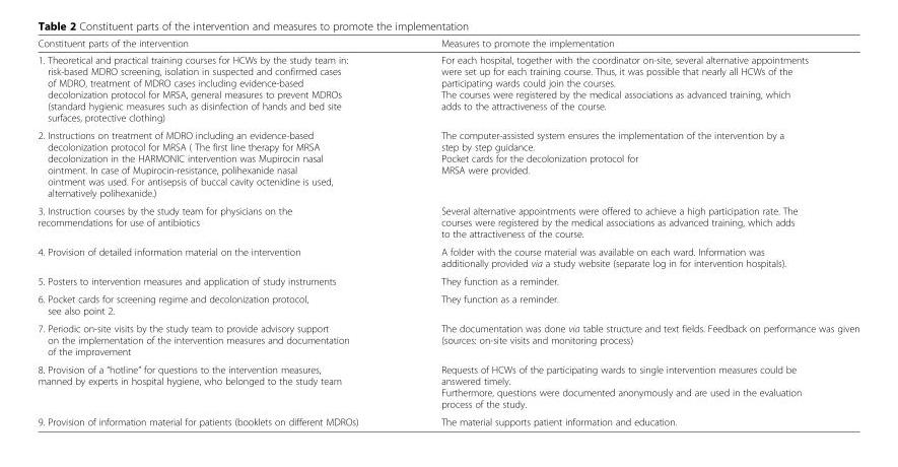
<table><thead><tr><td>Constituent parts of the intervention</td><td>Measures to promote the implementation</td></tr></thead><tbody><tr><td>1. Theoretical and practical training courses for HCWs by the study team in: risk-based MDRO screening, isolation in suspected and confirmed cases of MDRO, treatment of MDRO cases including evidence-based decolonization protocol for MRSA, general measures to prevent MDROs (standard hygienic measures such as disinfection of hands and bed site surfaces, protective clothing)</td><td>For each hospital, together with the coordinator on-site, several alternative appointments were set up for each training course. Thus, it was possible that nearly all HCWs of the participating wards could join the courses. The courses were registered by the medical associations as advanced training, which adds to the attractiveness of the course.</td></tr><tr><td>2. Instructions on treatment of MDRO including an evidence-based decolonization protocol for MRSA ( The first line therapy for MRSA decolonization in the HARMONIC intervention was Mupirocin nasal ointment. In case of Mupirocin-resistance, polihexanide nasal ointment was used. For antisepsis of buccal cavity octenidine is used, alternatively polihexanide.)</td><td>The computer-assisted system ensures the implementation of the intervention by a step by step guidance. Pocket cards for the decolonization protocol for MRSA were provided.</td></tr><tr><td>3. Instruction courses by the study team for physicians on the recommendations for use of antibiotics</td><td>Several alternative appointments were offered to achieve a high participation rate. The courses were registered by the medical associations as advanced training, which adds to the attractiveness of the course.</td></tr><tr><td>4. Provision of detailed information material on the intervention</td><td>A folder with the course material was available on each ward. Information was additionally provided via a study website (separate log in for intervention hospitals).</td></tr><tr><td>5. Posters to intervention measures and application of study instruments</td><td>They function as a reminder.</td></tr><tr><td>6. Pocket cards for screening regime and decolonization protocol, see also point 2.</td><td>They function as a reminder.</td></tr><tr><td>7. Periodic on-site visits by the study team to provide advisory support on the implementation of the intervention measures and documentation of the improvement</td><td>The documentation was done via table structure and text fields. Feedback on performance was given (sources: on-site visits and monitoring process)</td></tr><tr><td>8. Provision of a “hotline” for questions to the intervention measures, manned by experts in hospital hygiene, who belonged to the study team</td><td>Requests of HCWs of the participating wards to single intervention measures could be answered timely. Furthermore, questions were documented anonymously and are used in the evaluation process of the study.</td></tr><tr><td>9. Provision of information material for patients (booklets on different MDROs)</td><td>The material supports patient information and education.</td></tr></tbody></table>